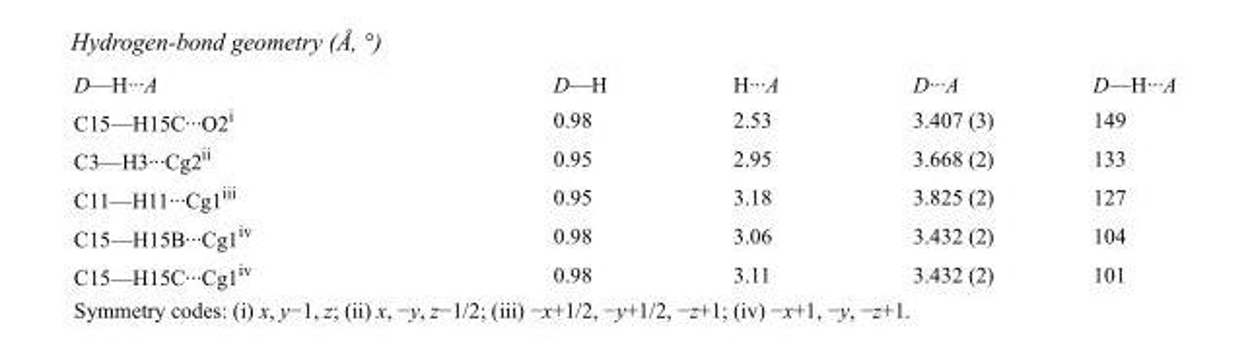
<table><tbody><tr><td>D—H···A</td><td>D—H</td><td>H···A</td><td>D···A</td><td>D—H···A</td></tr><tr><td>C15—H15C···O2<sup>i</sup></td><td>0.98</td><td>2.53</td><td>3.407 (3)</td><td>149</td></tr><tr><td>C3—H3···Cg2<sup>ii</sup></td><td>0.95</td><td>2.95</td><td>3.668 (2)</td><td>133</td></tr><tr><td>C11—H11···Cg1<sup>iii</sup></td><td>0.95</td><td>3.18</td><td>3.825 (2)</td><td>127</td></tr><tr><td>C15—H15B···Cg1<sup>iv</sup></td><td>0.98</td><td>3.06</td><td>3.432 (2)</td><td>104</td></tr><tr><td>C15—H15C···Cg1<sup>iv</sup></td><td>0.98</td><td>3.11</td><td>3.432 (2)</td><td>101</td></tr></tbody></table>